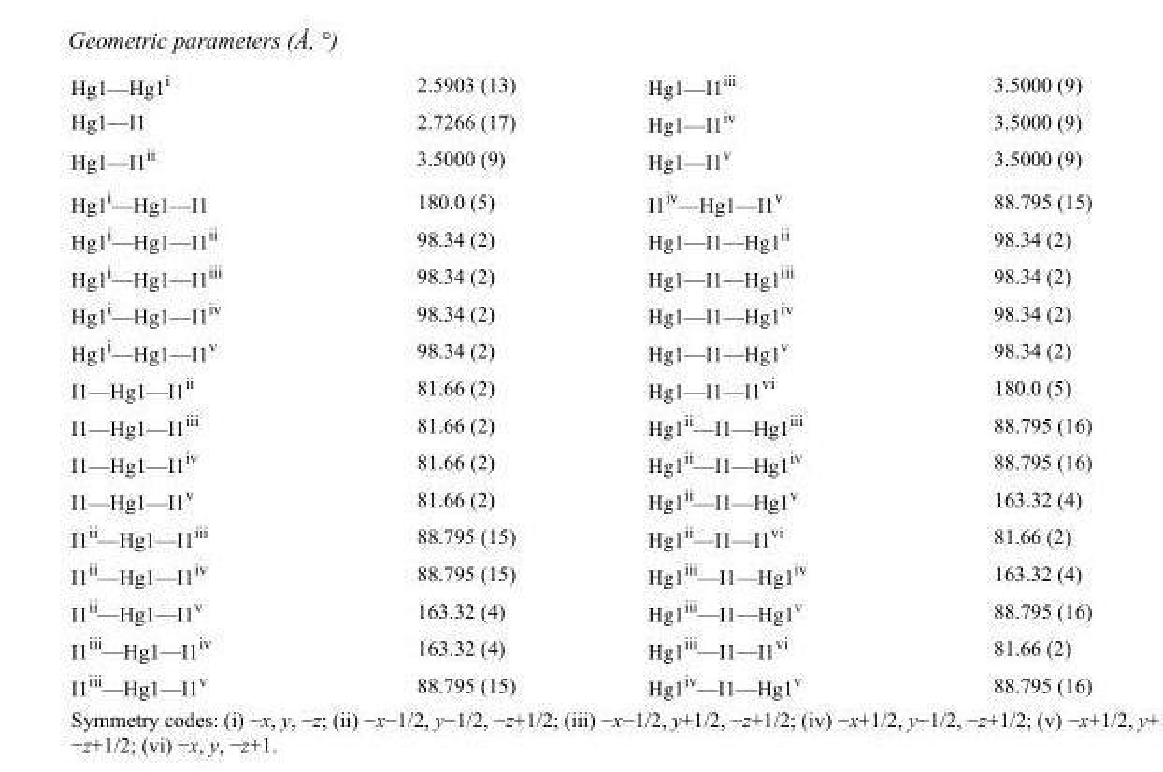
<table><tbody><tr><td>Hg1—Hg1<sup>i</sup></td><td>2.5903 (13)</td><td>Hg1—I1<sup>iii</sup></td><td>3.5000 (9)</td></tr><tr><td>Hg1—I1</td><td>2.7266 (17)</td><td>Hg1—I1<sup>iv</sup></td><td>3.5000 (9)</td></tr><tr><td>Hg1—I1<sup>ii</sup></td><td>3.5000 (9)</td><td>Hg1—I1<sup>v</sup></td><td>3.5000 (9)</td></tr><tr><td>Hg1<sup>i</sup>—Hg1—I1</td><td>180.0 (5)</td><td>I1<sup>iv</sup>—Hg1—I1<sup>v</sup></td><td>88.795 (15)</td></tr><tr><td>Hg1<sup>i</sup>—Hg1—I1<sup>ii</sup></td><td>98.34 (2)</td><td>Hg1—I1—Hg1<sup>ii</sup></td><td>98.34 (2)</td></tr><tr><td>Hg1<sup>i</sup>—Hg1—I1<sup>iii</sup></td><td>98.34 (2)</td><td>Hg1—I1—Hg1<sup>iii</sup></td><td>98.34 (2)</td></tr><tr><td>Hg1<sup>i</sup>—Hg1—I1<sup>iv</sup></td><td>98.34 (2)</td><td>Hg1—I1—Hg1<sup>iv</sup></td><td>98.34 (2)</td></tr><tr><td>Hg1<sup>i</sup>—Hg1—I1<sup>v</sup></td><td>98.34 (2)</td><td>Hg1—I1—Hg1<sup>v</sup></td><td>98.34 (2)</td></tr><tr><td>I1—Hg1—I1<sup>ii</sup></td><td>81.66 (2)</td><td>Hg1—I1—I1<sup>vi</sup></td><td>180.0 (5)</td></tr><tr><td>I1—Hg1—I1<sup>iii</sup></td><td>81.66 (2)</td><td>Hg1<sup>ii</sup>—I1—Hg1<sup>iii</sup></td><td>88.795 (16)</td></tr><tr><td>I1—Hg1—I1<sup>iv</sup></td><td>81.66 (2)</td><td>Hg1<sup>ii</sup>—I1—Hg1<sup>iv</sup></td><td>88.795 (16)</td></tr><tr><td>I1—Hg1—I1<sup>v</sup></td><td>81.66 (2)</td><td>Hg1<sup>ii</sup>—I1—Hg1<sup>v</sup></td><td>163.32 (4)</td></tr><tr><td>I1<sup>ii</sup>—Hg1—I1<sup>iii</sup></td><td>88.795 (15)</td><td>Hg1<sup>ii</sup>—I1—I1<sup>vi</sup></td><td>81.66 (2)</td></tr><tr><td>I1<sup>ii</sup>—Hg1—I1<sup>iv</sup></td><td>88.795 (15)</td><td>Hg1<sup>iii</sup>—I1—Hg1<sup>iv</sup></td><td>163.32 (4)</td></tr><tr><td>I1<sup>ii</sup>—Hg1—I1<sup>v</sup></td><td>163.32 (4)</td><td>Hg1<sup>iii</sup>—I1—Hg1<sup>v</sup></td><td>88.795 (16)</td></tr><tr><td>I1<sup>iii</sup>—Hg1—I1<sup>iv</sup></td><td>163.32 (4)</td><td>Hg1<sup>iii</sup>—I1—I1<sup>vi</sup></td><td>81.66 (2)</td></tr><tr><td>I1<sup>iii</sup>—Hg1—I1<sup>v</sup></td><td>88.795 (15)</td><td>Hg1<sup>iv</sup>—I1—Hg1<sup>v</sup></td><td>88.795 (16)</td></tr></tbody></table>